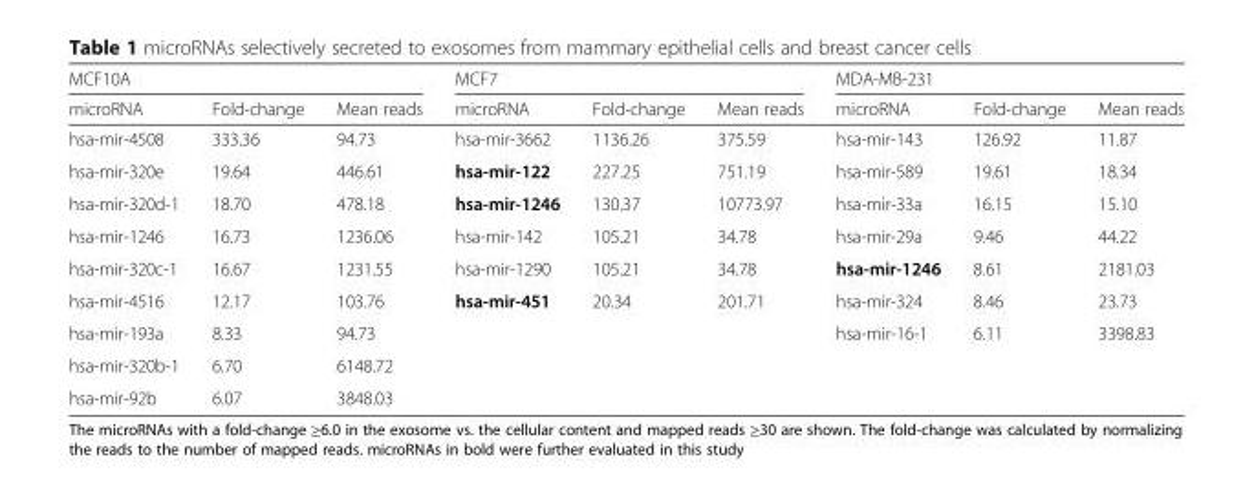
<table><thead><tr><td colspan="3">MCF10A</td><td colspan="3">MCF7</td><td colspan="3">MDA-MB-231</td></tr><tr><td>microRNA</td><td>Fold-change</td><td>Mean reads</td><td>microRNA</td><td>Fold-change</td><td>Mean reads</td><td>microRNA</td><td>Fold-change</td><td>Mean reads</td></tr></thead><tbody><tr><td>hsa-mir-4508</td><td>333.36</td><td>94.73</td><td>hsa-mir-3662</td><td>1136.26</td><td>375.59</td><td>hsa-mir-143</td><td>126.92</td><td>11.87</td></tr><tr><td>hsa-mir-320e</td><td>19.64</td><td>446.61</td><td>hsa-mir-122</td><td>227.25</td><td>751.19</td><td>hsa-mir-589</td><td>19.61</td><td>18.34</td></tr><tr><td>hsa-mir-320d-1</td><td>18.70</td><td>478.18</td><td>hsa-mir-1246</td><td>130.37</td><td>10773.97</td><td>hsa-mir-33a</td><td>16.15</td><td>15.10</td></tr><tr><td>hsa-mir-1246</td><td>16.73</td><td>1236.06</td><td>hsa-mir-142</td><td>105.21</td><td>34.78</td><td>hsa-mir-29a</td><td>9.46</td><td>44.22</td></tr><tr><td>hsa-mir-320c-1</td><td>16.67</td><td>1231.55</td><td>hsa-mir-1290</td><td>105.21</td><td>34.78</td><td>hsa-mir-1246</td><td>8.61</td><td>2181.03</td></tr><tr><td>hsa-mir-4516</td><td>12.17</td><td>103.76</td><td>hsa-mir-451</td><td>20.34</td><td>201.71</td><td>hsa-mir-324</td><td>8.46</td><td>23.73</td></tr><tr><td>hsa-mir-193a</td><td>8.33</td><td>94.73</td><td colspan="3"></td><td>hsa-mir-16-1</td><td>6.11</td><td>3398.83</td></tr><tr><td>hsa-mir-320b-1</td><td>6.70</td><td>6148.72</td><td colspan="6"></td></tr><tr><td>hsa-mir-92b</td><td>6.07</td><td>3848.03</td><td colspan="6"></td></tr></tbody></table>